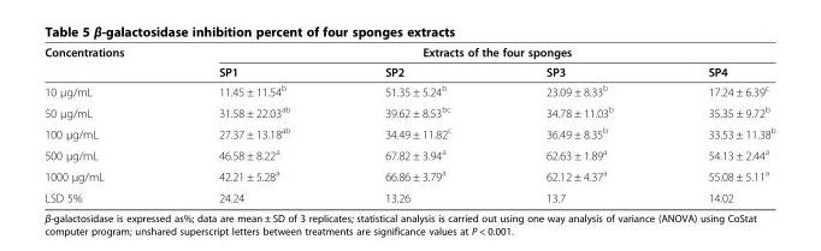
<table><thead><tr><td rowspan="2">Concentrations</td><td colspan="4">Extracts of the four sponges</td></tr><tr><td>SP1</td><td>SP2</td><td>SP3</td><td>SP4</td></tr></thead><tbody><tr><td>10 μg/mL</td><td>11.45 ± 11.54<sup>b</sup></td><td>51.35 ± 5.24<sup>b</sup></td><td>23.09 ± 8.33<sup>b</sup></td><td>17.24 ± 6.39<sup>c</sup></td></tr><tr><td>50 μg/mL</td><td>31.58 ± 22.03<sup>ab</sup></td><td>39.62 ± 8.53<sup>bc</sup></td><td>34.78 ± 11.03<sup>b</sup></td><td>35.35 ± 9.72<sup>b</sup></td></tr><tr><td>100 μg/mL</td><td>27.37 ± 13.18<sup>ab</sup></td><td>34.49 ± 11.82<sup>c</sup></td><td>36.49 ± 8.35<sup>b</sup></td><td>33.53 ± 11.38<sup>b</sup></td></tr><tr><td>500 μg/mL</td><td>46.58 ± 8.22<sup>a</sup></td><td>67.82 ± 3.94<sup>a</sup></td><td>62.63 ± 1.89<sup>a</sup></td><td>54.13 ± 2.44<sup>a</sup></td></tr><tr><td>1000 μg/mL</td><td>42.21 ± 5.28<sup>a</sup></td><td>66.86 ± 3.79<sup>a</sup></td><td>62.12 ± 4.37<sup>a</sup></td><td>55.08 ± 5.11<sup>a</sup></td></tr><tr><td>LSD 5%</td><td>24.24</td><td>13.26</td><td>13.7</td><td>14.02</td></tr></tbody></table>